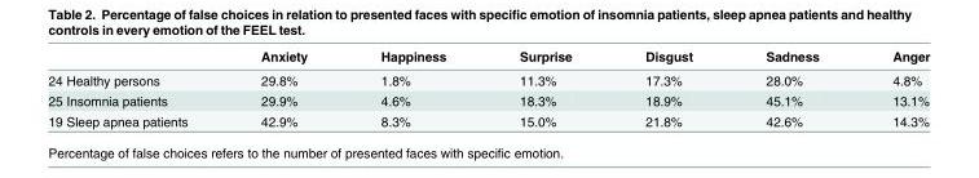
<table><thead><tr><td></td><td>Anxiety</td><td>Happiness</td><td>Surprise</td><td>Disgust</td><td>Sadness</td><td>Anger</td></tr></thead><tbody><tr><td>24 Healthy persons</td><td>29.8%</td><td>1.8%</td><td>11.3%</td><td>17.3%</td><td>28.0%</td><td>4.8%</td></tr><tr><td>25 Insomnia patients</td><td>29.9%</td><td>4.6%</td><td>18.3%</td><td>18.9%</td><td>45.1%</td><td>13.1%</td></tr><tr><td>19 Sleep apnea patients</td><td>42.9%</td><td>8.3%</td><td>15.0%</td><td>21.8%</td><td>42.6%</td><td>14.3%</td></tr></tbody></table>